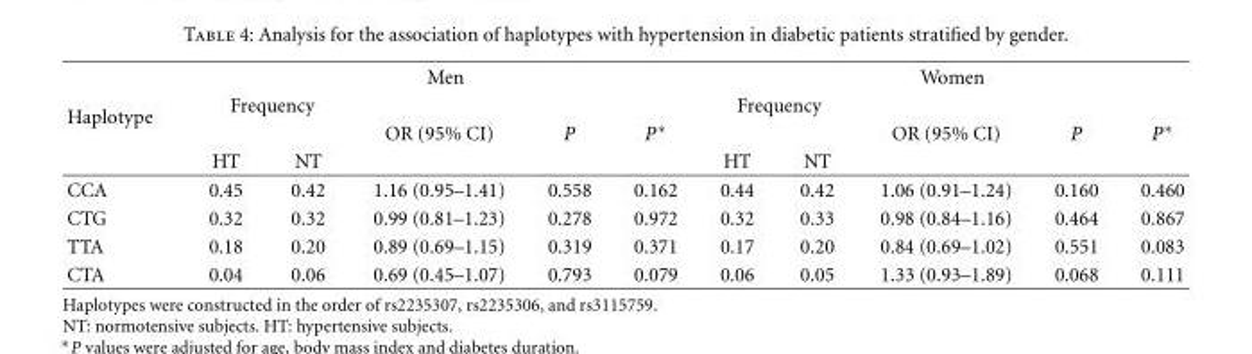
<table><thead><tr><td rowspan="4">Haplotype</td><td colspan="5">Men</td><td colspan="5">Women</td></tr><tr><td colspan="2">Frequency</td><td rowspan="3">OR (95% CI)</td><td rowspan="3">P</td><td rowspan="3">P∗</td><td colspan="2">Frequency</td><td rowspan="3">OR (95% CI)</td><td rowspan="3">P</td><td rowspan="3">P∗</td></tr><tr><td rowspan="2">HT</td><td rowspan="2">NT</td><td rowspan="2">HT</td><td rowspan="2">NT</td></tr><tr></tr></thead><tbody><tr><td>CCA</td><td>0.45</td><td>0.42</td><td>1.16 (0.95–1.41)</td><td>0.558</td><td>0.162</td><td>0.44</td><td>0.42</td><td>1.06 (0.91–1.24)</td><td>0.160</td><td>0.460</td></tr><tr><td>CTG</td><td>0.32</td><td>0.32</td><td>0.99 (0.81–1.23)</td><td>0.278</td><td>0.972</td><td>0.32</td><td>0.33</td><td>0.98 (0.84–1.16)</td><td>0.464</td><td>0.867</td></tr><tr><td>TTA</td><td>0.18</td><td>0.20</td><td>0.89 (0.69–1.15)</td><td>0.319</td><td>0.371</td><td>0.17</td><td>0.20</td><td>0.84 (0.69–1.02)</td><td>0.551</td><td>0.083</td></tr><tr><td>CTA</td><td>0.04</td><td>0.06</td><td>0.69 (0.45–1.07)</td><td>0.793</td><td>0.079</td><td>0.06</td><td>0.05</td><td>1.33 (0.93–1.89)</td><td>0.068</td><td>0.111</td></tr></tbody></table>